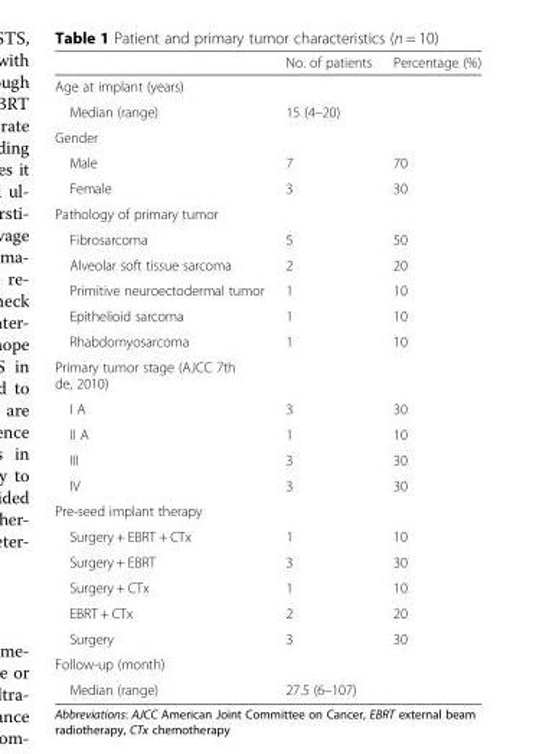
<table><thead><tr><td></td><td>No. of patients</td><td>Percentage (%)</td></tr></thead><tbody><tr><td colspan="3">Age at implant (years)</td></tr><tr><td>Median (range)</td><td>15 (4–20)</td><td></td></tr><tr><td colspan="3">Gender</td></tr><tr><td>Male</td><td>7</td><td>70</td></tr><tr><td>Female</td><td>3</td><td>30</td></tr><tr><td colspan="3">Pathology of primary tumor</td></tr><tr><td>Fibrosarcoma</td><td>5</td><td>50</td></tr><tr><td>Alveolar soft tissue sarcoma</td><td>2</td><td>20</td></tr><tr><td>Primitive neuroectodermal tumor</td><td>1</td><td>10</td></tr><tr><td>Epithelioid sarcoma</td><td>1</td><td>10</td></tr><tr><td>Rhabdomyosarcoma</td><td>1</td><td>10</td></tr><tr><td colspan="3">Primary tumor stage (AJCC 7th de, 2010)</td></tr><tr><td>I A</td><td>3</td><td>30</td></tr><tr><td>II A</td><td>1</td><td>10</td></tr><tr><td>III</td><td>3</td><td>30</td></tr><tr><td>IV</td><td>3</td><td>30</td></tr><tr><td colspan="3">Pre-seed implant therapy</td></tr><tr><td>Surgery + EBRT + CTx</td><td>1</td><td>10</td></tr><tr><td>Surgery + EBRT</td><td>3</td><td>30</td></tr><tr><td>Surgery + CTx</td><td>1</td><td>10</td></tr><tr><td>EBRT + CTx</td><td>2</td><td>20</td></tr><tr><td>Surgery</td><td>3</td><td>30</td></tr><tr><td colspan="3">Follow-up (month)</td></tr><tr><td>Median (range)</td><td>27.5 (6–107)</td><td></td></tr></tbody></table>